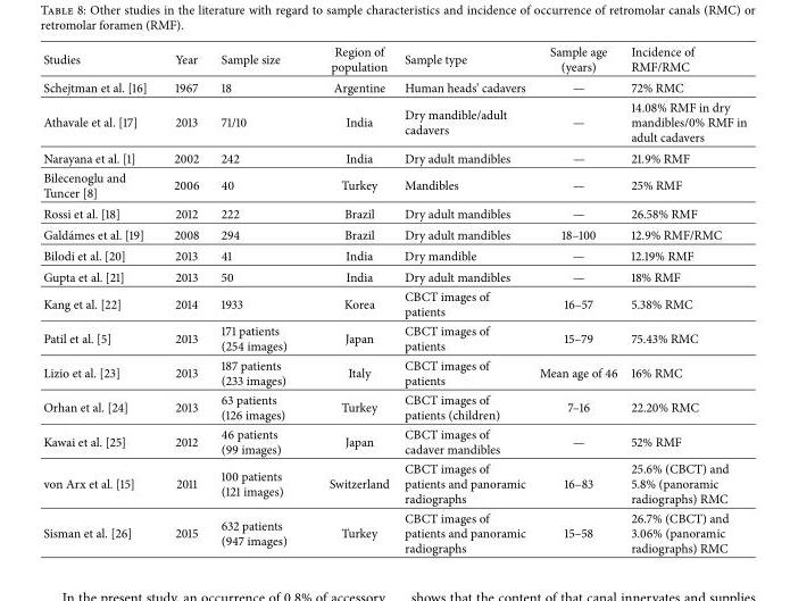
<table><thead><tr><td>Studies</td><td>Year</td><td>Sample size</td><td>Region of population</td><td>Sample type</td><td>Sample age (years)</td><td>Incidence of RMF/RMC</td></tr></thead><tbody><tr><td>Schejtman et al. [16]</td><td>1967</td><td>18</td><td>Argentine</td><td>Human heads’ cadavers</td><td>—</td><td>72% RMC</td></tr><tr><td>Athavale et al. [17]</td><td>2013</td><td>71/10</td><td>India</td><td>Dry mandible/adult cadavers</td><td>—</td><td>14.08% RMF in dry mandibles/0% RMF in adult cadavers</td></tr><tr><td>Narayana et al. [1]</td><td>2002</td><td>242</td><td>India</td><td>Dry adult mandibles</td><td>—</td><td>21.9% RMF</td></tr><tr><td>Bilecenoglu and Tuncer [8]</td><td>2006</td><td>40</td><td>Turkey</td><td>Mandibles</td><td>—</td><td>25% RMF</td></tr><tr><td>Rossi et al. [18]</td><td>2012</td><td>222</td><td>Brazil</td><td>Dry adult mandibles</td><td>—</td><td>26.58% RMF</td></tr><tr><td>Gald´ames et al. [19]</td><td>2008</td><td>294</td><td>Brazil</td><td>Dry adult mandibles</td><td>18–100</td><td>12.9% RMF/RMC</td></tr><tr><td>Bilodi et al. [20]</td><td>2013</td><td>41</td><td>India</td><td>Dry mandible</td><td>—</td><td>12.19% RMF</td></tr><tr><td>Gupta et al. [21]</td><td>2013</td><td>50</td><td>India</td><td>Dry adult mandibles</td><td>—</td><td>18% RMF</td></tr><tr><td>Kang et al. [22]</td><td>2014</td><td>1933</td><td>Korea</td><td>CBCT images of patients</td><td>16–57</td><td>5.38% RMC</td></tr><tr><td>Patil et al. [5]</td><td>2013</td><td>171 patients (254 images)</td><td>Japan</td><td>CBCT images of patients</td><td>15–79</td><td>75.43% RMC</td></tr><tr><td>Lizio et al. [23]</td><td>2013</td><td>187 patients (233 images)</td><td>Italy</td><td>CBCT images of patients</td><td>Mean age of 46</td><td>16% RMC</td></tr><tr><td>Orhan et al. [24]</td><td>2013</td><td>63 patients (126 images)</td><td>Turkey</td><td>CBCT images of patients (children)</td><td>7–16</td><td>22.20% RMC</td></tr><tr><td>Kawai et al. [25]</td><td>2012</td><td>46 patients (99 images)</td><td>Japan</td><td>CBCT images of cadaver mandibles</td><td>—</td><td>52% RMF</td></tr><tr><td>von Arx et al. [15]</td><td>2011</td><td>100 patients (121 images)</td><td>Switzerland</td><td>CBCT images of patients and panoramic radiographs</td><td>16–83</td><td>25.6% (CBCT) and 5.8% (panoramic radiographs) RMC</td></tr><tr><td>Sisman et al. [26]</td><td>2015</td><td>632 patients (947 images)</td><td>Turkey</td><td>CBCT images of patients and panoramic radiographs</td><td>15–58</td><td>26.7% (CBCT) and 3.06% (panoramic radiographs) RMC</td></tr></tbody></table>